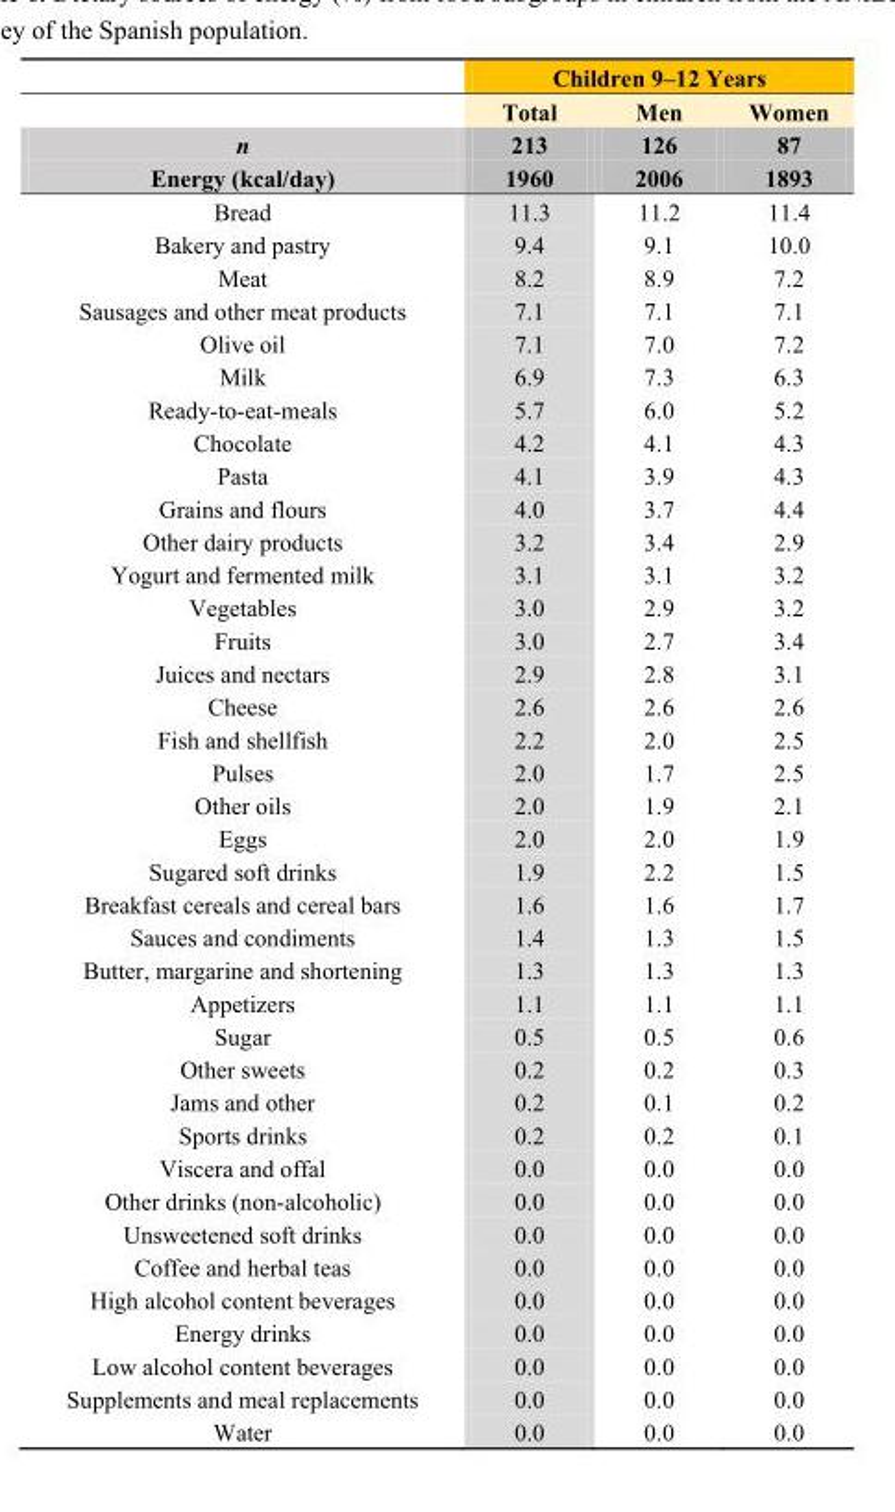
<table><thead><tr><td rowspan="4">n Energy (kcal/day)</td><td colspan="3">Children 9–12 Years</td></tr><tr><td rowspan="3">Total 213 1960</td><td rowspan="3">Men 126 2006</td><td rowspan="3">Women 87 1893</td></tr><tr></tr><tr></tr></thead><tbody><tr><td>Bread</td><td>11.3</td><td>11.2</td><td>11.4</td></tr><tr><td>Bakery and pastry</td><td>9.4</td><td>9.1</td><td>10.0</td></tr><tr><td>Meat</td><td>8.2</td><td>8.9</td><td>7.2</td></tr><tr><td>Sausages and other meat products</td><td>7.1</td><td>7.1</td><td>7.1</td></tr><tr><td>Olive oil</td><td>7.1</td><td>7.0</td><td>7.2</td></tr><tr><td>Milk</td><td>6.9</td><td>7.3</td><td>6.3</td></tr><tr><td>Ready-to-eat-meals</td><td>5.7</td><td>6.0</td><td>5.2</td></tr><tr><td>Chocolate</td><td>4.2</td><td>4.1</td><td>4.3</td></tr><tr><td>Pasta</td><td>4.1</td><td>3.9</td><td>4.3</td></tr><tr><td>Grains and flours</td><td>4.0</td><td>3.7</td><td>4.4</td></tr><tr><td>Other dairy products</td><td>3.2</td><td>3.4</td><td>2.9</td></tr><tr><td>Yogurt and fermented milk</td><td>3.1</td><td>3.1</td><td>3.2</td></tr><tr><td>Vegetables</td><td>3.0</td><td>2.9</td><td>3.2</td></tr><tr><td>Fruits</td><td>3.0</td><td>2.7</td><td>3.4</td></tr><tr><td>Juices and nectars</td><td>2.9</td><td>2.8</td><td>3.1</td></tr><tr><td>Cheese</td><td>2.6</td><td>2.6</td><td>2.6</td></tr><tr><td>Fish and shellfish</td><td>2.2</td><td>2.0</td><td>2.5</td></tr><tr><td>Pulses</td><td>2.0</td><td>1.7</td><td>2.5</td></tr><tr><td>Other oils</td><td>2.0</td><td>1.9</td><td>2.1</td></tr><tr><td>Eggs</td><td>2.0</td><td>2.0</td><td>1.9</td></tr><tr><td>Sugared soft drinks</td><td>1.9</td><td>2.2</td><td>1.5</td></tr><tr><td>Breakfast cereals and cereal bars</td><td>1.6</td><td>1.6</td><td>1.7</td></tr><tr><td>Sauces and condiments</td><td>1.4</td><td>1.3</td><td>1.5</td></tr><tr><td>Butter, margarine and shortening</td><td>1.3</td><td>1.3</td><td>1.3</td></tr><tr><td>Appetizers</td><td>1.1</td><td>1.1</td><td>1.1</td></tr><tr><td>Sugar</td><td>0.5</td><td>0.5</td><td>0.6</td></tr><tr><td>Other sweets</td><td>0.2</td><td>0.2</td><td>0.3</td></tr><tr><td>Jams and other</td><td>0.2</td><td>0.1</td><td>0.2</td></tr><tr><td>Sports drinks</td><td>0.2</td><td>0.2</td><td>0.1</td></tr><tr><td>Viscera and offal</td><td>0.0</td><td>0.0</td><td>0.0</td></tr><tr><td>Other drinks (non-alcoholic)</td><td>0.0</td><td>0.0</td><td>0.0</td></tr><tr><td>Unsweetened soft drinks</td><td>0.0</td><td>0.0</td><td>0.0</td></tr><tr><td>Coffee and herbal teas</td><td>0.0</td><td>0.0</td><td>0.0</td></tr><tr><td>High alcohol content beverages</td><td>0.0</td><td>0.0</td><td>0.0</td></tr><tr><td>Energy drinks</td><td>0.0</td><td>0.0</td><td>0.0</td></tr><tr><td>Low alcohol content beverages</td><td>0.0</td><td>0.0</td><td>0.0</td></tr><tr><td>Supplements and meal replacements</td><td>0.0</td><td>0.0</td><td>0.0</td></tr><tr><td>Water</td><td>0.0</td><td>0.0</td><td>0.0</td></tr></tbody></table>